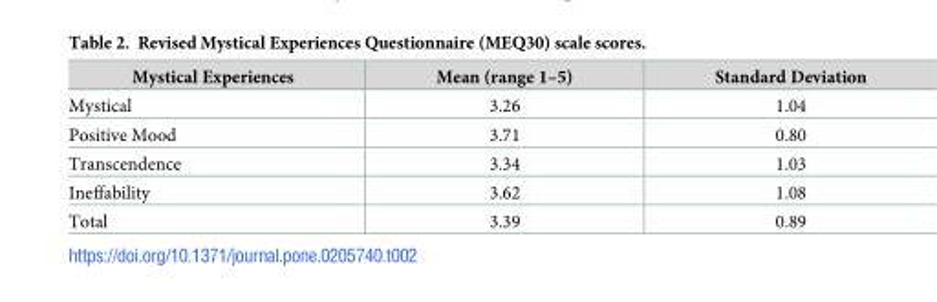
<table><thead><tr><td>Mystical Experiences</td><td>Mean (range 1–5)</td><td>Standard Deviation</td></tr></thead><tbody><tr><td>Mystical</td><td>3.26</td><td>1.04</td></tr><tr><td>Positive Mood</td><td>3.71</td><td>0.80</td></tr><tr><td>Transcendence</td><td>3.34</td><td>1.03</td></tr><tr><td>Ineffability</td><td>3.62</td><td>1.08</td></tr><tr><td>Total</td><td>3.39</td><td>0.89</td></tr></tbody></table>